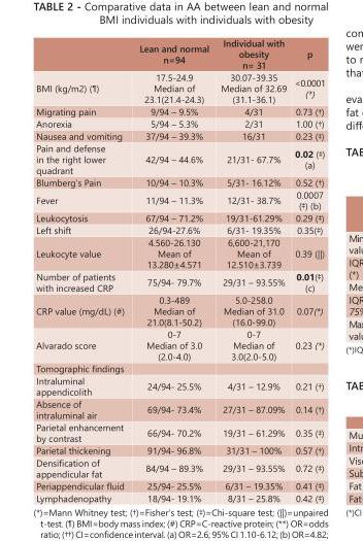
<table><thead><tr><td></td><td>Lean and normal n=94</td><td>Individual with obesity n= 31</td><td>p</td></tr></thead><tbody><tr><td>BMI (kg/m2) (¶)</td><td>17.5-24.9 Median of 23.1(21.4-24.3)</td><td>30.07-39.35 Median of 32.69 (31.1-36.1)</td><td>&lt;0.0001 (*)</td></tr><tr><td>Migrating pain</td><td>9/94 – 9.5%</td><td>4/31</td><td>0.73 (†)</td></tr><tr><td>Anorexia</td><td>5/94 – 5.3%</td><td>2/31</td><td>1.00 (†)</td></tr><tr><td>Nausea and vomiting</td><td>37/94 – 39.3%</td><td>16/31</td><td>0.23 (‡)</td></tr><tr><td>Pain and defense in the right lower quadrant</td><td>42/94 – 44.6%</td><td>21/31- 67.7%</td><td>0.02 (‡) (a)</td></tr><tr><td>Blumberg’s Pain</td><td>10/94 – 10.3%</td><td>5/31- 16.12%</td><td>0.52 (†)</td></tr><tr><td>Fever</td><td>11/94 – 11.3%</td><td>12/31- 38.7%</td><td>0.0007 (‡) (b)</td></tr><tr><td>Leukocytosis</td><td>67/94 – 71.2%</td><td>19/31-61.29%</td><td>0.29 (‡)</td></tr><tr><td>Left shift</td><td>26/94-27.6%</td><td>6/31- 19.35%</td><td>0.35(‡)</td></tr><tr><td>Leukocyte value</td><td>4.560-26.130 Mean of 13.280±4.571</td><td>6,600-21,170 Mean of 12.510±3.739</td><td>0.39 (||)</td></tr><tr><td>Number of patients with increased CRP</td><td>75/94- 79.7%</td><td>29/31 – 93.55%</td><td>0.01(‡) (c)</td></tr><tr><td>CRP value (mg/dL) (#)</td><td>0.3-489 Median of 21.0(8.1-50.2)</td><td>5.0-258.0 Median of 31.0 (16.0-99.0)</td><td>0.07(*)</td></tr><tr><td>Alvarado score</td><td>0-7 Median of 3.0 (2.0-4.0)</td><td>0-7 Median of 3.0(2.0-5.0)</td><td>0.23 (*)</td></tr><tr><td colspan="4">Tomographic findings</td></tr><tr><td>Intraluminal appendicolith</td><td>24/94- 25.5%</td><td>4/31 – 12.9%</td><td>0.21 (†)</td></tr><tr><td>Absence of intraluminal air</td><td>69/94- 73.4%</td><td>27/31 – 87.09%</td><td>0.14 (†)</td></tr><tr><td>Parietal enhancement by contrast</td><td>66/94- 70.2%</td><td>19/31 – 61.29%</td><td>0.35 (‡)</td></tr><tr><td>Parietal thickening</td><td>91/94- 96.8%</td><td>31/31 – 100%</td><td>0.57 (†)</td></tr><tr><td>Densification of appendicular fat</td><td>84/94 – 89.3%</td><td>29/31 – 93.55%</td><td>0.72 (‡)</td></tr><tr><td>Periappendicular fluid</td><td>25/94- 25.5%</td><td>6/31 – 19.35%</td><td>0.41 (‡)</td></tr><tr><td>Lymphadenopathy</td><td>18/94- 19.1%</td><td>8/31 – 25.8%</td><td>0.42 (‡)</td></tr></tbody></table>